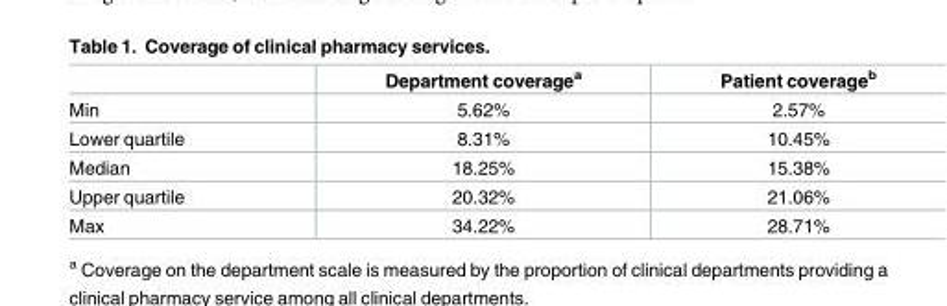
<table><thead><tr><td></td><td>Department coverage<sup>a</sup></td><td>Patient coverage<sup>b</sup></td></tr></thead><tbody><tr><td>Min</td><td>5.62%</td><td>2.57%</td></tr><tr><td>Lower quartile</td><td>8.31%</td><td>10.45%</td></tr><tr><td>Median</td><td>18.25%</td><td>15.38%</td></tr><tr><td>Upper quartile</td><td>20.32%</td><td>21.06%</td></tr><tr><td>Max</td><td>34.22%</td><td>28.71%</td></tr></tbody></table>